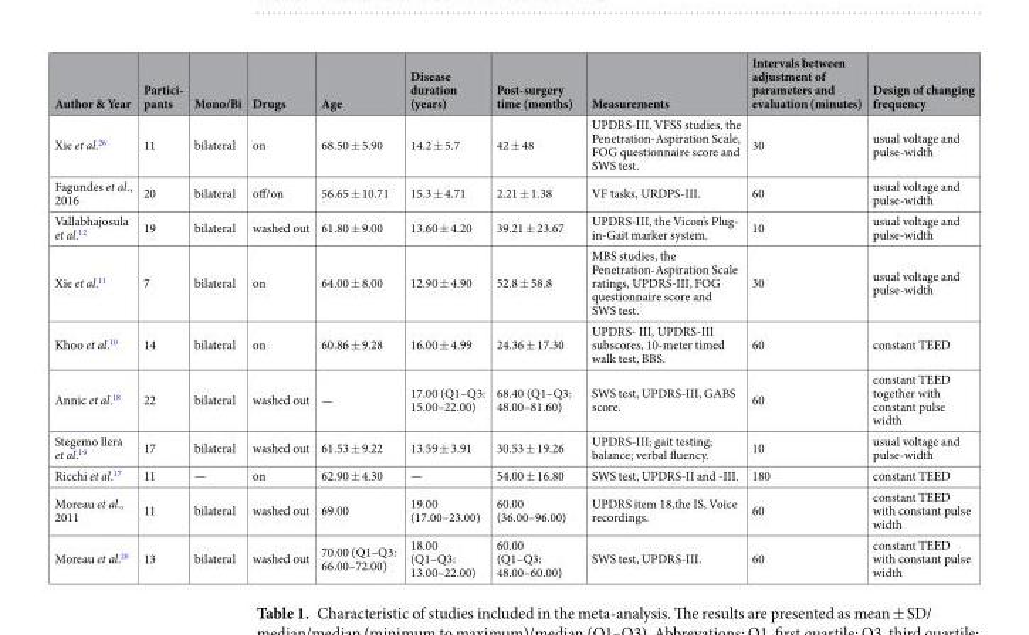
<table><thead><tr><td>Author &amp; Year</td><td>Partici- pants</td><td>Mono/Bi</td><td>Drugs</td><td>Age</td><td>Disease duration (years)</td><td>Post-surgery time (months)</td><td>Measurements</td><td>Intervals between adjustment of parameters and evaluation (minutes)</td><td>Design of changing frequency</td></tr></thead><tbody><tr><td>Xie et al.<sup>26</sup></td><td>11</td><td>bilateral</td><td>on</td><td>68.50 ± 5.90</td><td>14.2 ± 5.7</td><td>42 ± 48</td><td>UPDRS-III, VFSS studies, the Penetration-Aspiration Scale, FOG questionnaire score and SWS test.</td><td>30</td><td>usual voltage and pulse-width</td></tr><tr><td>Fagundes et al., 2016</td><td>20</td><td>bilateral</td><td>off/on</td><td>56.65 ± 10.71</td><td>15.3 ± 4.71</td><td>2.21 ± 1.38</td><td>VF tasks, URDPS-III.</td><td>60</td><td>usual voltage and pulse-width</td></tr><tr><td>Vallabhajosula et al.<sup>12</sup></td><td>19</td><td>bilateral</td><td>washed out</td><td>61.80 ± 9.00</td><td>13.60 ± 4.20</td><td>39.21 ± 23.67</td><td>UPDRS-III, the Vicon’s Plug- in-Gait marker system.</td><td>10</td><td>usual voltage and pulse-width</td></tr><tr><td>Xie et al.<sup>11</sup></td><td>7</td><td>bilateral</td><td>on</td><td>64.00 ± 8.00</td><td>12.90 ± 4.90</td><td>52.8 ± 58.8</td><td>MBS studies, the Penetration-Aspiration Scale ratings, UPDRS-III, FOG questionnaire score and SWS test.</td><td>30</td><td>usual voltage and pulse-width</td></tr><tr><td>Khoo et al.<sup>10</sup></td><td>14</td><td>bilateral</td><td>on</td><td>60.86 ± 9.28</td><td>16.00 ± 4.99</td><td>24.36 ± 17.30</td><td>UPDRS- III, UPDRS-III subscores, 10-meter timed walk test, BBS.</td><td>60</td><td>constant TEED</td></tr><tr><td>Annic et al.<sup>18</sup></td><td>22</td><td>bilateral</td><td>washed out</td><td>—</td><td>17.00 (Q1–Q3: 15.00–22.00)</td><td>68.40 (Q1–Q3: 48.00–81.60)</td><td>SWS test, UPDRS-III, GABS score.</td><td>60</td><td>constant TEED together with constant pulse width</td></tr><tr><td>Stegemo llera et al.<sup>19</sup></td><td>17</td><td>bilateral</td><td>washed out</td><td>61.53 ± 9.22</td><td>13.59 ± 3.91</td><td>30.53 ± 19.26</td><td>UPDRS-III; gait testing; balance; verbal fluency.</td><td>10</td><td>usual voltage and pulse-width</td></tr><tr><td>Ricchi et al.<sup>17</sup></td><td>11</td><td>—</td><td>on</td><td>62.90 ± 4.30</td><td>—</td><td>54.00 ± 16.80</td><td>SWS test, UPDRS-II and -III.</td><td>180</td><td>constant TEED</td></tr><tr><td>Moreau et al., 2011</td><td>11</td><td>bilateral</td><td>washed out</td><td>69.00</td><td>19.00 (17.00–23.00)</td><td>60.00 (36.00–96.00)</td><td>UPDRS item 18,the IS, Voice recordings.</td><td>60</td><td>constant TEED with constant pulse width</td></tr><tr><td>Moreau et al.<sup>20</sup></td><td>13</td><td>bilateral</td><td>washed out</td><td>70.00 (Q1–Q3: 66.00–72.00)</td><td>18.00 (Q1–Q3: 13.00–22.00)</td><td>60.00 (Q1–Q3: 48.00–60.00)</td><td>SWS test, UPDRS-III.</td><td>60</td><td>constant TEED with constant pulse width</td></tr></tbody></table>